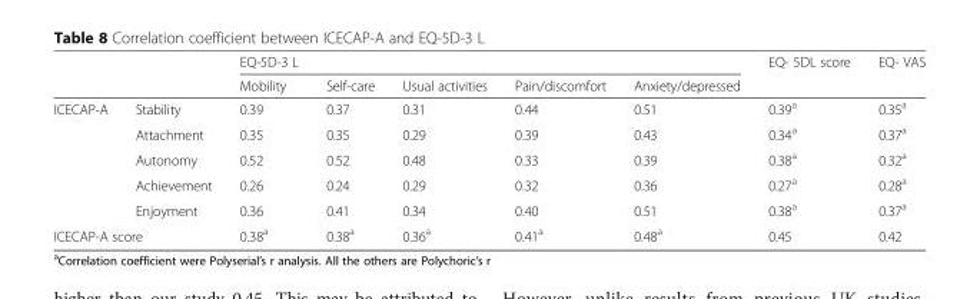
<table><thead><tr><td rowspan="2"></td><td rowspan="2"></td><td rowspan="2">EQ-5D-3 L Mobility</td><td rowspan="2">Self-care</td><td rowspan="2">Usual activities</td><td rowspan="2">Pain/discomfort</td><td rowspan="2">Anxiety/depressed</td><td rowspan="2">EQ- 5DL score</td><td rowspan="2">EQ- VAS</td></tr><tr></tr></thead><tbody><tr><td rowspan="5">ICECAP-A</td><td>Stability</td><td>0.39</td><td>0.37</td><td>0.31</td><td>0.44</td><td>0.51</td><td>0.39<sup>a</sup></td><td>0.35<sup>a</sup></td></tr><tr><td>Attachment</td><td>0.35</td><td>0.35</td><td>0.29</td><td>0.39</td><td>0.43</td><td>0.34<sup>a</sup></td><td>0.37<sup>a</sup></td></tr><tr><td>Autonomy</td><td>0.52</td><td>0.52</td><td>0.48</td><td>0.33</td><td>0.39</td><td>0.38<sup>a</sup></td><td>0.32<sup>a</sup></td></tr><tr><td>Achievement</td><td>0.26</td><td>0.24</td><td>0.29</td><td>0.32</td><td>0.36</td><td>0.27<sup>a</sup></td><td>0.28<sup>a</sup></td></tr><tr><td>Enjoyment</td><td>0.36</td><td>0.41</td><td>0.34</td><td>0.40</td><td>0.51</td><td>0.38<sup>a</sup></td><td>0.37<sup>a</sup></td></tr><tr><td colspan="2">ICECAP-A score</td><td>0.38<sup>a</sup></td><td>0.38<sup>a</sup></td><td>0.36<sup>a</sup></td><td>0.41<sup>a</sup></td><td>0.48<sup>a</sup></td><td>0.45</td><td>0.42</td></tr></tbody></table>